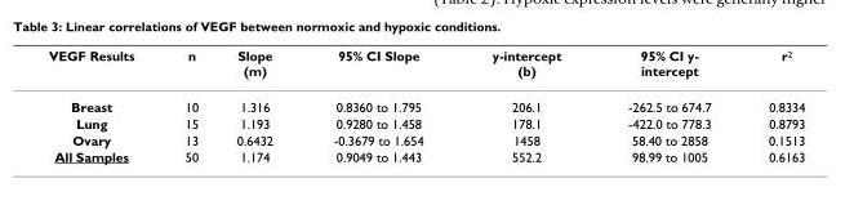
<table><thead><tr><td>VEGF Results</td><td>n</td><td>Slope (m)</td><td>95% CI Slope</td><td>y-intercept (b)</td><td>95% CI y- intercept</td><td>r<sup>2</sup></td></tr></thead><tbody><tr><td>Breast</td><td>10</td><td>1.316</td><td>0.8360 to 1.795</td><td>206.1</td><td>-262.5 to 674.7</td><td>0.8334</td></tr><tr><td>Lung</td><td>15</td><td>1.193</td><td>0.9280 to 1.458</td><td>178.1</td><td>-422.0 to 778.3</td><td>0.8793</td></tr><tr><td>Ovary</td><td>13</td><td>0.6432</td><td>-0.3679 to 1.654</td><td>1458</td><td>58.40 to 2858</td><td>0.1513</td></tr><tr><td>All Samples</td><td>50</td><td>1.174</td><td>0.9049 to 1.443</td><td>552.2</td><td>98.99 to 1005</td><td>0.6163</td></tr></tbody></table>